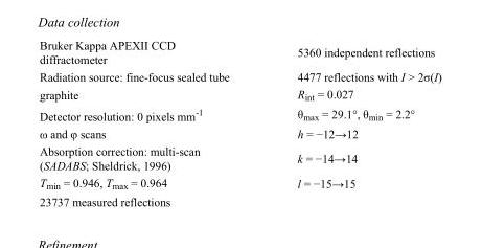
<table><tbody><tr><td>Bruker Kappa APEXII CCD diffractometer</td><td>5360 independent reflections</td></tr><tr><td>Radiation source: fine-focus sealed tube</td><td>4477 reflections with I &gt; 2σ(I)</td></tr><tr><td>graphite</td><td>R<sub>int</sub> = 0.027</td></tr><tr><td>Detector resolution: 0 pixels mm<sup>-1</sup></td><td>θ<sub>max</sub> = 29.1°, θ<sub>min</sub> = 2.2°</td></tr><tr><td>ω and φ scans</td><td>h = −12→12</td></tr><tr><td>Absorption correction: multi-scan (SADABS; Sheldrick, 1996)</td><td>k = −14→14</td></tr><tr><td>T<sub>min</sub> = 0.946, T<sub>max</sub> = 0.964</td><td>l = −15→15</td></tr><tr><td>23737 measured reflections</td><td></td></tr></tbody></table>